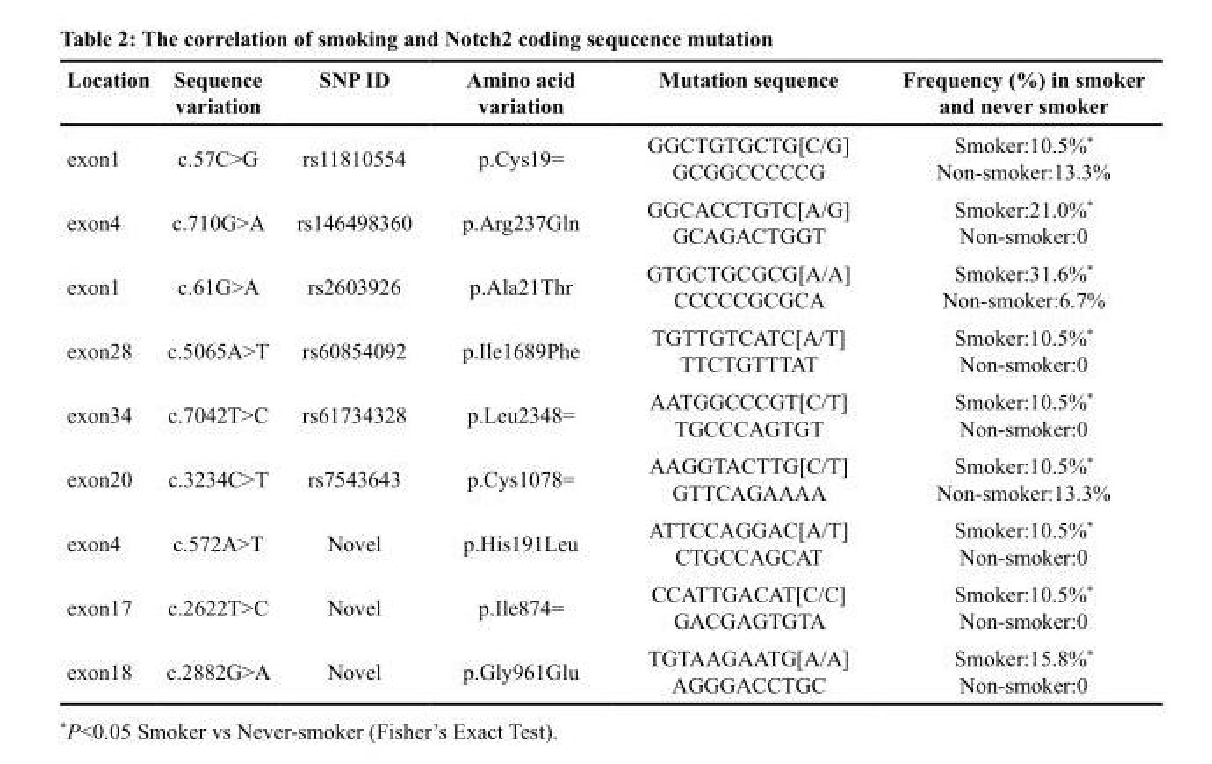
<table><thead><tr><td>Location</td><td>Sequence variation</td><td>SNP ID</td><td>Amino acid variation</td><td>Mutation sequence</td><td>Frequency (%) in smoker and never smoker</td></tr></thead><tbody><tr><td>exon1</td><td>c.57C&gt;G</td><td>rs11810554</td><td>p.Cys19=</td><td>GGCTGTGCTG[C/G] GCGGCCCCCG</td><td>Smoker:10.5%* Non-smoker:13.3%</td></tr><tr><td>exon4</td><td>c.710G&gt;A</td><td>rs146498360</td><td>p.Arg237Gln</td><td>GGCACCTGTC[A/G] GCAGACTGGT</td><td>Smoker:21.0%* Non-smoker:0</td></tr><tr><td>exon1</td><td>c.61G&gt;A</td><td>rs2603926</td><td>p.Ala21Thr</td><td>GTGCTGCGCG[A/A] CCCCCGCGCA</td><td>Smoker:31.6%* Non-smoker:6.7%</td></tr><tr><td>exon28</td><td>c.5065A&gt;T</td><td>rs60854092</td><td>p.Ile1689Phe</td><td>TGTTGTCATC[A/T] TTCTGTTTAT</td><td>Smoker:10.5%* Non-smoker:0</td></tr><tr><td>exon34</td><td>c.7042T&gt;C</td><td>rs61734328</td><td>p.Leu2348=</td><td>AATGGCCCGT[C/T] TGCCCAGTGT</td><td>Smoker:10.5%* Non-smoker:0</td></tr><tr><td>exon20</td><td>c.3234C&gt;T</td><td>rs7543643</td><td>p.Cys1078=</td><td>AAGGTACTTG[C/T] GTTCAGAAAA</td><td>Smoker:10.5%* Non-smoker:13.3%</td></tr><tr><td>exon4</td><td>c.572A&gt;T</td><td>Novel</td><td>p.His191Leu</td><td>ATTCCAGGAC[A/T] CTGCCAGCAT</td><td>Smoker:10.5%* Non-smoker:0</td></tr><tr><td>exon17</td><td>c.2622T&gt;C</td><td>Novel</td><td>p.Ile874=</td><td>CCATTGACAT[C/C] GACGAGTGTA</td><td>Smoker:10.5%* Non-smoker:0</td></tr><tr><td>exon18</td><td>c.2882G&gt;A</td><td>Novel</td><td>p.Gly961Glu</td><td>TGTAAGAATG[A/A] AGGGACCTGC</td><td>Smoker:15.8%* Non-smoker:0</td></tr></tbody></table>